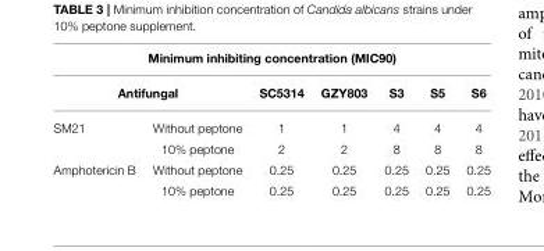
<table><thead><tr><td colspan="7">Minimum inhibiting concentration (MIC90)</td></tr><tr><td colspan="2">Antifungal</td><td rowspan="2">SC5314 1</td><td rowspan="2">GZY803 1</td><td rowspan="2">S3 4</td><td rowspan="2">S5 4</td><td rowspan="2">S6 4</td></tr><tr><td>SM21</td><td>Without peptone</td></tr></thead><tbody><tr><td></td><td>10% peptone</td><td>2</td><td>2</td><td>8</td><td>8</td><td>8</td></tr><tr><td rowspan="2">Amphotericin B</td><td>Without peptone</td><td>0.25</td><td>0.25</td><td>0.25</td><td>0.25</td><td>0.25</td></tr><tr><td>10% peptone</td><td>0.25</td><td>0.25</td><td>0.25</td><td>0.25</td><td>0.25</td></tr></tbody></table>